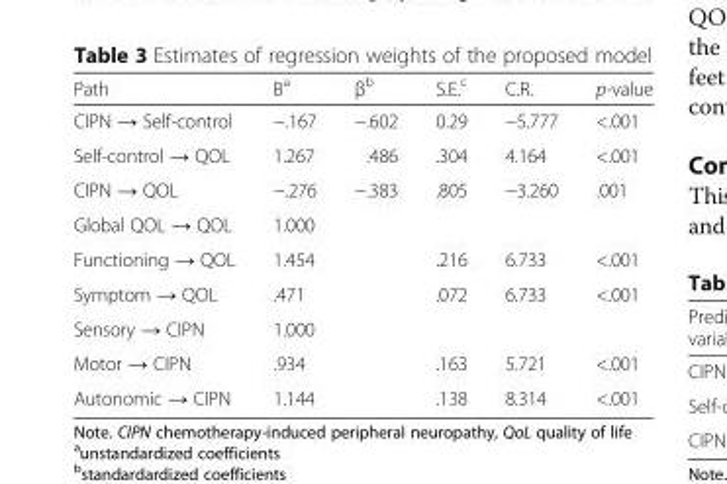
<table><thead><tr><td>Path</td><td>B<sup>a</sup></td><td>β<sup>b</sup></td><td>S.E.<sup>c</sup></td><td>C.R.</td><td>p-value</td></tr></thead><tbody><tr><td>CIPN → Self-control</td><td>−.167</td><td>−.602</td><td>0.29</td><td>−5.777</td><td>&lt;.001</td></tr><tr><td>Self-control → QOL</td><td>1.267</td><td>.486</td><td>.304</td><td>4.164</td><td>&lt;.001</td></tr><tr><td>CIPN → QOL</td><td>−.276</td><td>−.383</td><td>.805</td><td>−3.260</td><td>.001</td></tr><tr><td>Global QOL → QOL</td><td>1.000</td><td></td><td></td><td></td><td></td></tr><tr><td>Functioning → QOL</td><td>1.454</td><td></td><td>.216</td><td>6.733</td><td>&lt;.001</td></tr><tr><td>Symptom → QOL</td><td>.471</td><td></td><td>.072</td><td>6.733</td><td>&lt;.001</td></tr><tr><td>Sensory → CIPN</td><td>1.000</td><td></td><td></td><td></td><td></td></tr><tr><td>Motor → CIPN</td><td>.934</td><td></td><td>.163</td><td>5.721</td><td>&lt;.001</td></tr><tr><td>Autonomic → CIPN</td><td>1.144</td><td></td><td>.138</td><td>8.314</td><td>&lt;.001</td></tr></tbody></table>